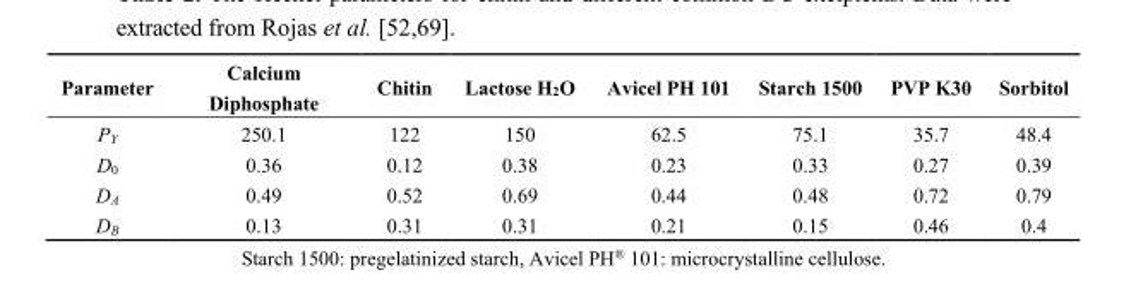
<table><thead><tr><td>Parameter</td><td>Calcium Diphosphate</td><td>Chitin</td><td>Lactose H<sub>2</sub>O</td><td>Avicel PH 101</td><td>Starch 1500</td><td>PVP K30</td><td>Sorbitol</td></tr></thead><tbody><tr><td>P<sub>Y</sub></td><td>250.1</td><td>122</td><td>150</td><td>62.5</td><td>75.1</td><td>35.7</td><td>48.4</td></tr><tr><td>D<sub>0</sub></td><td>0.36</td><td>0.12</td><td>0.38</td><td>0.23</td><td>0.33</td><td>0.27</td><td>0.39</td></tr><tr><td>D<sub>A</sub></td><td>0.49</td><td>0.52</td><td>0.69</td><td>0.44</td><td>0.48</td><td>0.72</td><td>0.79</td></tr><tr><td>D<sub>B</sub></td><td>0.13</td><td>0.31</td><td>0.31</td><td>0.21</td><td>0.15</td><td>0.46</td><td>0.4</td></tr></tbody></table>